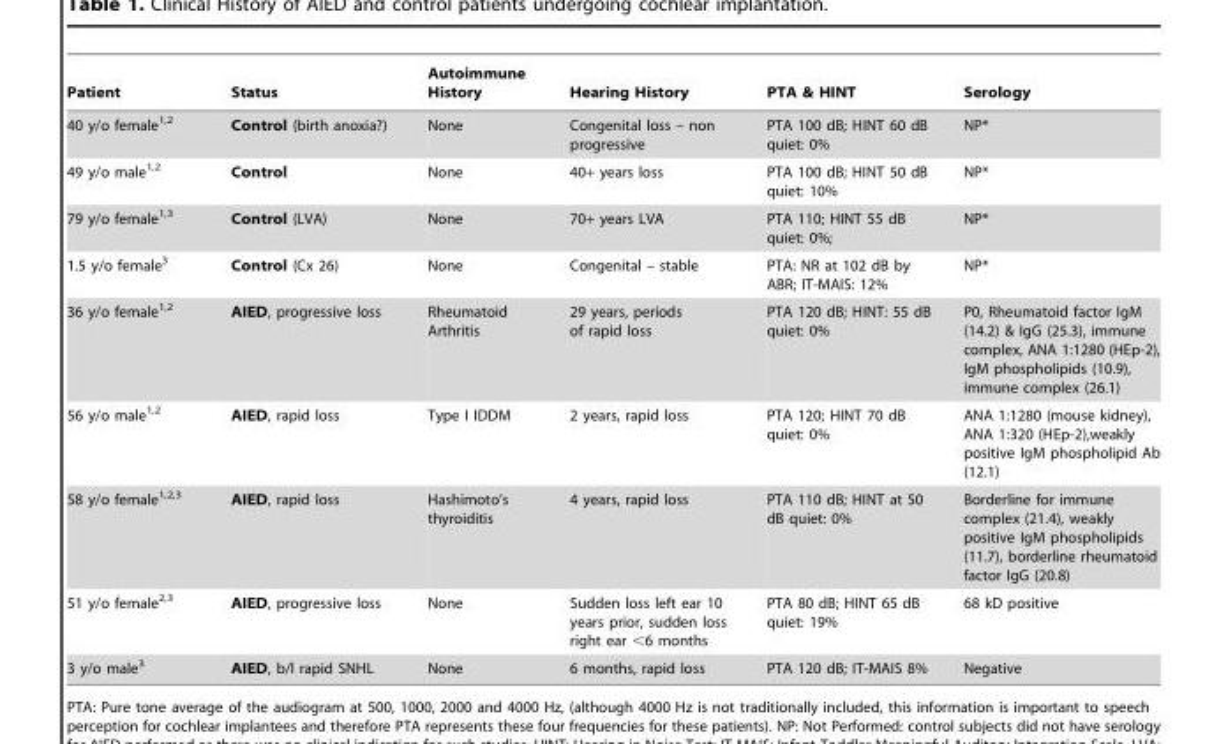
<table><thead><tr><td>Patient</td><td>Status</td><td>Autoimmune History</td><td>Hearing History</td><td>PTA &amp; HINT</td><td>Serology</td></tr></thead><tbody><tr><td>40 y/o female<sup>1,2</sup></td><td>Control (birth anoxia?)</td><td>None</td><td>Congenital loss – non progressive</td><td>PTA 100 dB; HINT 60 dB quiet: 0%</td><td>NP*</td></tr><tr><td>49 y/o male<sup>1,2</sup></td><td>Control</td><td>None</td><td>40+ years loss</td><td>PTA 100 dB; HINT 50 dB quiet: 10%</td><td>NP*</td></tr><tr><td>79 y/o female<sup>1,3</sup></td><td>Control (LVA)</td><td>None</td><td>70+ years LVA</td><td>PTA 110; HINT 55 dB quiet: 0%;</td><td>NP*</td></tr><tr><td>1.5 y/o female<sup>3</sup></td><td>Control (Cx 26)</td><td>None</td><td>Congenital – stable</td><td>PTA: NR at 102 dB by ABR; IT-MAIS: 12%</td><td>NP*</td></tr><tr><td>36 y/o female<sup>1,2</sup></td><td>AIED, progressive loss</td><td>Rheumatoid Arthritis</td><td>29 years, periods of rapid loss</td><td>PTA 120 dB; HINT: 55 dB quiet: 0%</td><td>P0, Rheumatoid factor IgM (14.2) &amp; IgG (25.3), immune complex, ANA 1:1280 (HEp-2), IgM phospholipids (10.9), immune complex (26.1)</td></tr><tr><td>56 y/o male<sup>1,2</sup></td><td>AIED, rapid loss</td><td>Type I IDDM</td><td>2 years, rapid loss</td><td>PTA 120; HINT 70 dB quiet: 0%</td><td>ANA 1:1280 (mouse kidney), ANA 1:320 (HEp-2),weakly positive IgM phospholipid Ab (12.1)</td></tr><tr><td>58 y/o female<sup>1,2,3</sup></td><td>AIED, rapid loss</td><td>Hashimoto’s thyroiditis</td><td>4 years, rapid loss</td><td>PTA 110 dB; HINT at 50 dB quiet: 0%</td><td>Borderline for immune complex (21.4), weakly positive IgM phospholipids (11.7), borderline rheumatoid factor IgG (20.8)</td></tr><tr><td>51 y/o female<sup>2,3</sup></td><td>AIED, progressive loss</td><td>None</td><td>Sudden loss left ear 10 years prior, sudden loss right ear &lt;6 months</td><td>PTA 80 dB; HINT 65 dB quiet: 19%</td><td>68 kD positive</td></tr><tr><td>3 y/o male<sup>3</sup></td><td>AIED, b/l rapid SNHL</td><td>None</td><td>6 months, rapid loss</td><td>PTA 120 dB; IT-MAIS 8%</td><td>Negative</td></tr></tbody></table>